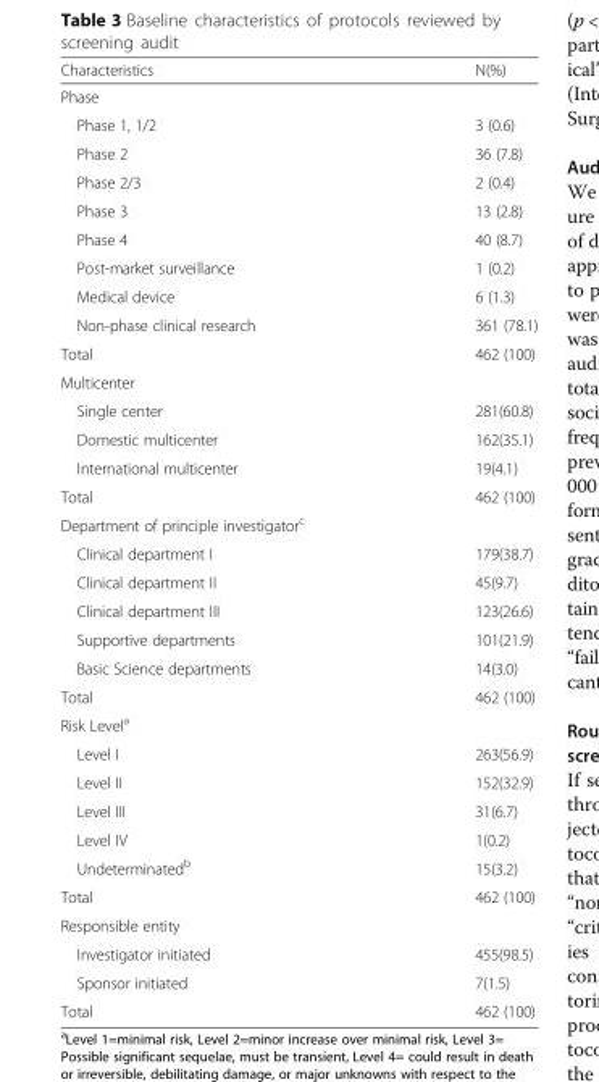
<table><thead><tr><td>Characteristics</td><td>N(%)</td></tr></thead><tbody><tr><td colspan="2">Phase</td></tr><tr><td>Phase 1, 1/2</td><td>3 (0.6)</td></tr><tr><td>Phase 2</td><td>36 (7.8)</td></tr><tr><td>Phase 2/3</td><td>2 (0.4)</td></tr><tr><td>Phase 3</td><td>13 (2.8)</td></tr><tr><td>Phase 4</td><td>40 (8.7)</td></tr><tr><td>Post-market surveillance</td><td>1 (0.2)</td></tr><tr><td>Medical device</td><td>6 (1.3)</td></tr><tr><td>Non-phase clinical research</td><td>361 (78.1)</td></tr><tr><td>Total</td><td>462 (100)</td></tr><tr><td colspan="2">Multicenter</td></tr><tr><td>Single center</td><td>281(60.8)</td></tr><tr><td>Domestic multicenter</td><td>162(35.1)</td></tr><tr><td>International multicenter</td><td>19(4.1)</td></tr><tr><td>Total</td><td>462 (100)</td></tr><tr><td colspan="2">Department of principle investigator<sup>c</sup></td></tr><tr><td>Clinical department I</td><td>179(38.7)</td></tr><tr><td>Clinical department II</td><td>45(9.7)</td></tr><tr><td>Clinical department III</td><td>123(26.6)</td></tr><tr><td>Supportive departments</td><td>101(21.9)</td></tr><tr><td>Basic Science departments</td><td>14(3.0)</td></tr><tr><td>Total</td><td>462 (100)</td></tr><tr><td colspan="2">Risk Level<sup>a</sup></td></tr><tr><td>Level I</td><td>263(56.9)</td></tr><tr><td>Level II</td><td>152(32.9)</td></tr><tr><td>Level III</td><td>31(6.7)</td></tr><tr><td>Level IV</td><td>1(0.2)</td></tr><tr><td>Undeterminated<sup>b</sup></td><td>15(3.2)</td></tr><tr><td>Total</td><td>462 (100)</td></tr><tr><td colspan="2">Responsible entity</td></tr><tr><td>Investigator initiated</td><td>455(98.5)</td></tr><tr><td>Sponsor initiated</td><td>7(1.5)</td></tr><tr><td>Total</td><td>462 (100)</td></tr></tbody></table>